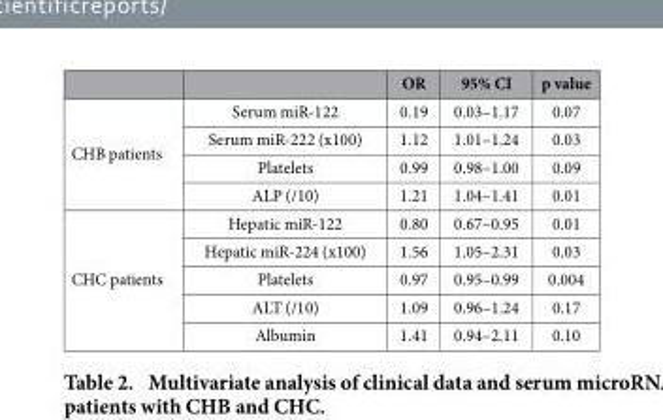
<table><thead><tr><td></td><td></td><td>OR</td><td>95% CI</td><td>p value</td></tr></thead><tbody><tr><td rowspan="4">CHB patients</td><td>Serum miR-122</td><td>0.19</td><td>0.03–1.17</td><td>0.07</td></tr><tr><td>Serum miR-222 (x100)</td><td>1.12</td><td>1.01–1.24</td><td>0.03</td></tr><tr><td>Platelets</td><td>0.99</td><td>0.98–1.00</td><td>0.09</td></tr><tr><td>ALP (/10)</td><td>1.21</td><td>1.04–1.41</td><td>0.01</td></tr><tr><td rowspan="5">CHC patients</td><td>Hepatic miR-122</td><td>0.80</td><td>0.67–0.95</td><td>0.01</td></tr><tr><td>Hepatic miR-224 (x100)</td><td>1.56</td><td>1.05–2.31</td><td>0.03</td></tr><tr><td>Platelets</td><td>0.97</td><td>0.95–0.99</td><td>0.004</td></tr><tr><td>ALT (/10)</td><td>1.09</td><td>0.96–1.24</td><td>0.17</td></tr><tr><td>Albumin</td><td>1.41</td><td>0.94–2.11</td><td>0.10</td></tr></tbody></table>